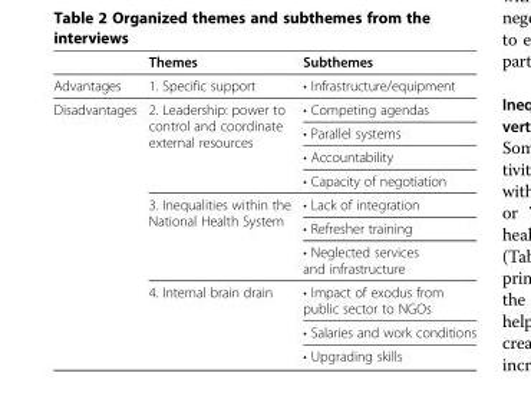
<table><thead><tr><td></td><td>Themes</td><td>Subthemes</td></tr></thead><tbody><tr><td>Advantages</td><td>1. Specific support</td><td>• Infrastructure/equipment</td></tr><tr><td rowspan="10">Disadvantages</td><td rowspan="4">2. Leadership: power to control and coordinate external resources</td><td>• Competing agendas</td></tr><tr><td>• Parallel systems</td></tr><tr><td>• Accountability</td></tr><tr><td>• Capacity of negotiation</td></tr><tr><td rowspan="3">3. Inequalities within the National Health System</td><td>• Lack of integration</td></tr><tr><td>• Refresher training</td></tr><tr><td>• Neglected services and infrastructure</td></tr><tr><td rowspan="3">4. Internal brain drain</td><td>• Impact of exodus from public sector to NGOs</td></tr><tr><td>• Salaries and work conditions</td></tr><tr><td>• Upgrading skills</td></tr></tbody></table>